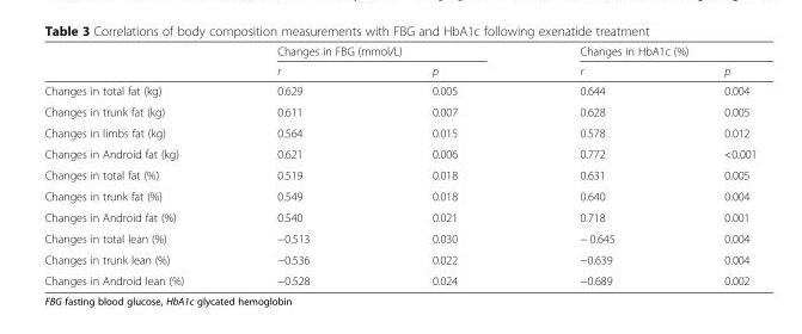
<table><thead><tr><td rowspan="2"></td><td colspan="2">Changes in FBG (mmol/L)</td><td colspan="2">Changes in HbA1c (%)</td></tr><tr><td>r</td><td>p</td><td>r</td><td>p</td></tr></thead><tbody><tr><td>Changes in total fat (kg)</td><td>0.629</td><td>0.005</td><td>0.644</td><td>0.004</td></tr><tr><td>Changes in trunk fat (kg)</td><td>0.611</td><td>0.007</td><td>0.628</td><td>0.005</td></tr><tr><td>Changes in limbs fat (kg)</td><td>0.564</td><td>0.015</td><td>0.578</td><td>0.012</td></tr><tr><td>Changes in Android fat (kg)</td><td>0.621</td><td>0.006</td><td>0.772</td><td>&lt;0.001</td></tr><tr><td>Changes in total fat (%)</td><td>0.519</td><td>0.018</td><td>0.631</td><td>0.005</td></tr><tr><td>Changes in trunk fat (%)</td><td>0.549</td><td>0.018</td><td>0.640</td><td>0.004</td></tr><tr><td>Changes in Android fat (%)</td><td>0.540</td><td>0.021</td><td>0.718</td><td>0.001</td></tr><tr><td>Changes in total lean (%)</td><td>−0.513</td><td>0.030</td><td>− 0.645</td><td>0.004</td></tr><tr><td>Changes in trunk lean (%)</td><td>−0.536</td><td>0.022</td><td>−0.639</td><td>0.004</td></tr><tr><td>Changes in Android lean (%)</td><td>−0.528</td><td>0.024</td><td>−0.689</td><td>0.002</td></tr></tbody></table>